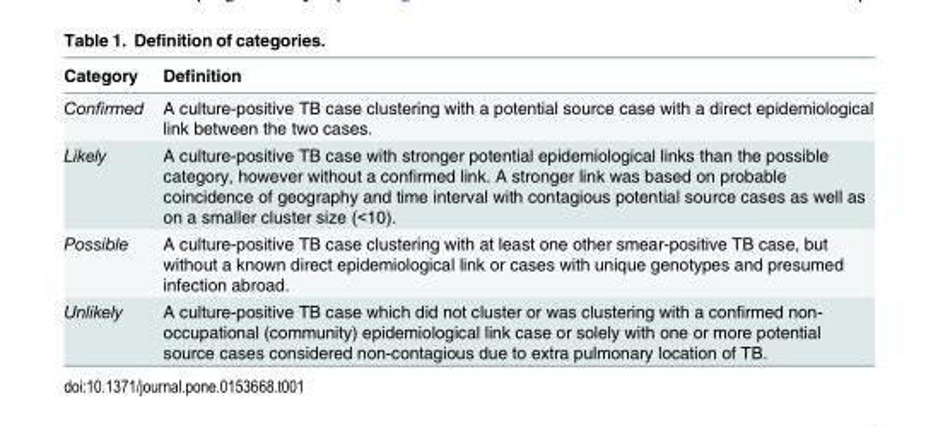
<table><thead><tr><td>Category</td><td>Definition</td></tr></thead><tbody><tr><td>Confirmed</td><td>A culture-positive TB case clustering with a potential source case with a direct epidemiological link between the two cases.</td></tr><tr><td>Likely</td><td>A culture-positive TB case with stronger potential epidemiological links than the possible category, however without a confirmed link. A stronger link was based on probable coincidence of geography and time interval with contagious potential source cases as well as on a smaller cluster size (&lt;10).</td></tr><tr><td>Possible</td><td>A culture-positive TB case clustering with at least one other smear-positive TB case, but without a known direct epidemiological link or cases with unique genotypes and presumed infection abroad.</td></tr><tr><td>Unlikely</td><td>A culture-positive TB case which did not cluster or was clustering with a confirmed non- occupational (community) epidemiological link case or solely with one or more potential source cases considered non-contagious due to extra pulmonary location of TB.</td></tr></tbody></table>